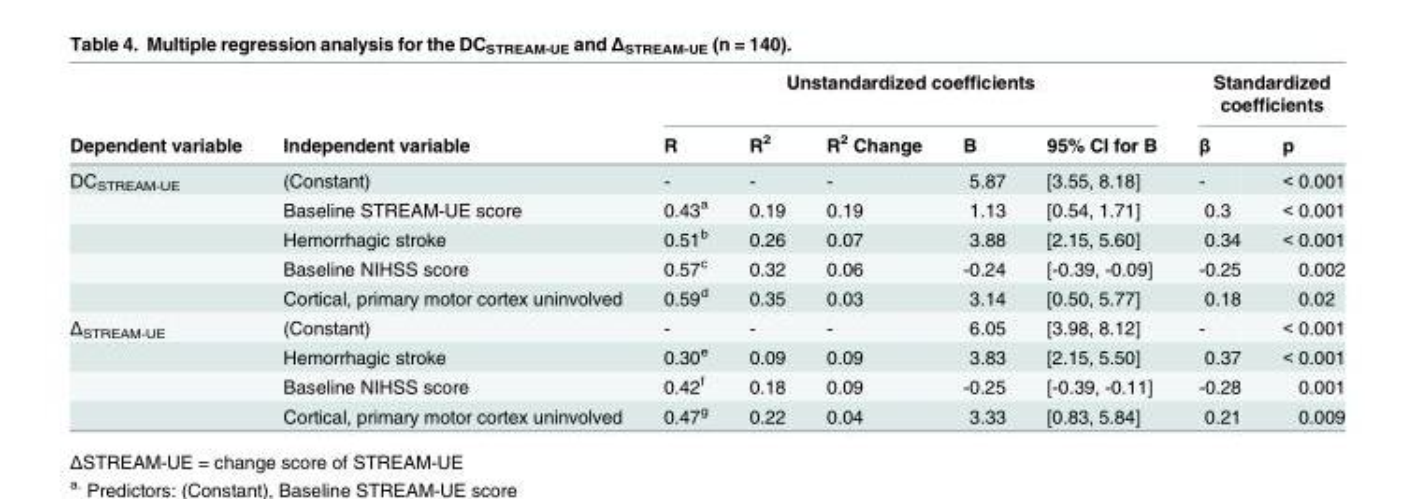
<table><thead><tr><td rowspan="2">Dependent variable</td><td rowspan="2">Independent variable</td><td colspan="5">Unstandardized coefficients</td><td colspan="2">Standardized coefficients</td></tr><tr><td>R</td><td>R<sup>2</sup></td><td>R<sup>2</sup> Change</td><td>B</td><td>95% CI for B</td><td>β</td><td>p</td></tr></thead><tbody><tr><td rowspan="5">DC<sub>STREAM-UE</sub></td><td>(Constant)</td><td>-</td><td>-</td><td>-</td><td>5.87</td><td>[3.55, 8.18]</td><td>-</td><td>&lt; 0.001</td></tr><tr><td>Baseline STREAM-UE score</td><td>0.43<sup>a</sup></td><td>0.19</td><td>0.19</td><td>1.13</td><td>[0.54, 1.71]</td><td>0.3</td><td>&lt; 0.001</td></tr><tr><td>Hemorrhagic stroke</td><td>0.51<sup>b</sup></td><td>0.26</td><td>0.07</td><td>3.88</td><td>[2.15, 5.60]</td><td>0.34</td><td>&lt; 0.001</td></tr><tr><td>Baseline NIHSS score</td><td>0.57<sup>c</sup></td><td>0.32</td><td>0.06</td><td>-0.24</td><td>[-0.39, -0.09]</td><td>-0.25</td><td>0.002</td></tr><tr><td>Cortical, primary motor cortex uninvolved</td><td>0.59<sup>d</sup></td><td>0.35</td><td>0.03</td><td>3.14</td><td>[0.50, 5.77]</td><td>0.18</td><td>0.02</td></tr><tr><td rowspan="4">Δ<sub>STREAM-UE</sub></td><td>(Constant)</td><td>-</td><td>-</td><td>-</td><td>6.05</td><td>[3.98, 8.12]</td><td>-</td><td>&lt; 0.001</td></tr><tr><td>Hemorrhagic stroke</td><td>0.30<sup>e</sup></td><td>0.09</td><td>0.09</td><td>3.83</td><td>[2.15, 5.50]</td><td>0.37</td><td>&lt; 0.001</td></tr><tr><td>Baseline NIHSS score</td><td>0.42<sup>f</sup></td><td>0.18</td><td>0.09</td><td>-0.25</td><td>[-0.39, -0.11]</td><td>-0.28</td><td>0.001</td></tr><tr><td>Cortical, primary motor cortex uninvolved</td><td>0.47<sup>g</sup></td><td>0.22</td><td>0.04</td><td>3.33</td><td>[0.83, 5.84]</td><td>0.21</td><td>0.009</td></tr></tbody></table>